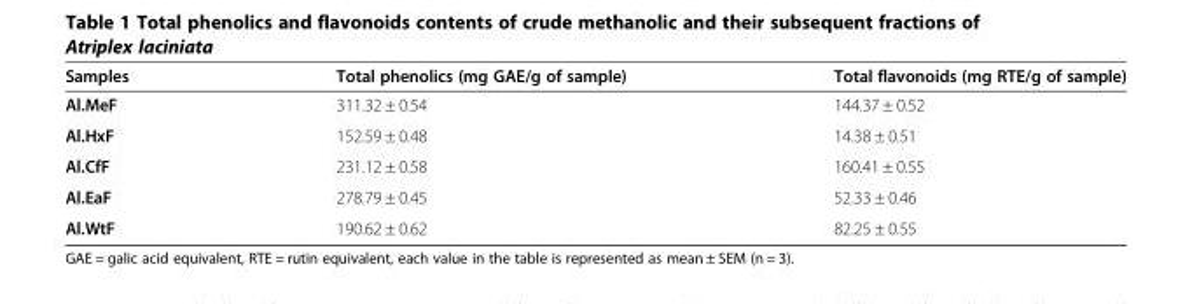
<table><thead><tr><td>Samples</td><td>Total phenolics (mg GAE/g of sample)</td><td>Total flavonoids (mg RTE/g of sample)</td></tr></thead><tbody><tr><td>Al.MeF</td><td>311.32 ± 0.54</td><td>144.37 ± 0.52</td></tr><tr><td>Al.HxF</td><td>152.59 ± 0.48</td><td>14.38 ± 0.51</td></tr><tr><td>Al.CfF</td><td>231.12 ± 0.58</td><td>160.41 ± 0.55</td></tr><tr><td>Al.EaF</td><td>278.79 ± 0.45</td><td>52.33 ± 0.46</td></tr><tr><td>Al.WtF</td><td>190.62 ± 0.62</td><td>82.25 ± 0.55</td></tr></tbody></table>